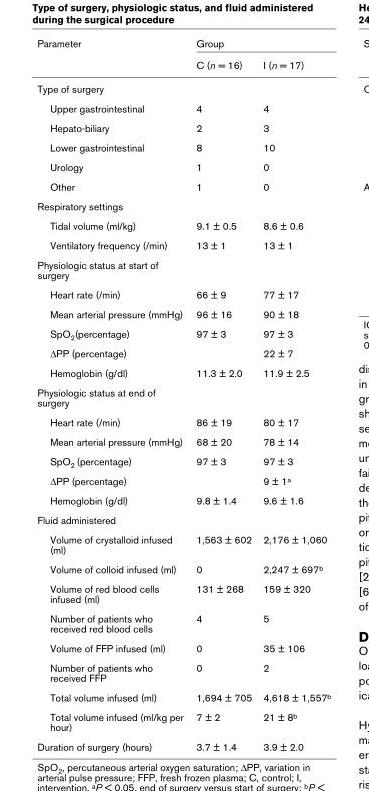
<table><thead><tr><td rowspan="2">Parameter</td><td colspan="2">Group</td></tr><tr><td>C (n = 16)</td><td>I (n = 17)</td></tr></thead><tbody><tr><td colspan="3">Type of surgery</td></tr><tr><td>Upper gastrointestinal</td><td>4</td><td>4</td></tr><tr><td>Hepato-biliary</td><td>2</td><td>3</td></tr><tr><td>Lower gastrointestinal</td><td>8</td><td>10</td></tr><tr><td>Urology</td><td>1</td><td>0</td></tr><tr><td>Other</td><td>1</td><td>0</td></tr><tr><td colspan="3">Respiratory settings</td></tr><tr><td>Tidal volume (ml/kg)</td><td>9.1 ± 0.5</td><td>8.6 ± 0.6</td></tr><tr><td>Ventilatory frequency (/min)</td><td>13 ± 1</td><td>13 ± 1</td></tr><tr><td colspan="3">Physiologic status at start of surgery</td></tr><tr><td>Heart rate (/min)</td><td>66 ± 9</td><td>77 ± 17</td></tr><tr><td>Mean arterial pressure (mmHg)</td><td>96 ± 16</td><td>90 ± 18</td></tr><tr><td>SpO<sub>2</sub>(percentage)</td><td>97 ± 3</td><td>97 ± 3</td></tr><tr><td>ΔPP (percentage)</td><td></td><td>22 ± 7</td></tr><tr><td>Hemoglobin (g/dl)</td><td>11.3 ± 2.0</td><td>11.9 ± 2.5</td></tr><tr><td colspan="3">Physiologic status at end of surgery</td></tr><tr><td>Heart rate (/min)</td><td>86 ± 19</td><td>80 ± 17</td></tr><tr><td>Mean arterial pressure (mmHg)</td><td>68 ± 20</td><td>78 ± 14</td></tr><tr><td>SpO<sub>2</sub> (percentage)</td><td>97 ± 3</td><td>97 ± 3</td></tr><tr><td>ΔPP (percentage)</td><td></td><td>9 ± 1<sup>a</sup></td></tr><tr><td>Hemoglobin (g/dl)</td><td>9.8 ± 1.4</td><td>9.6 ± 1.6</td></tr><tr><td colspan="3">Fluid administered</td></tr><tr><td>Volume of crystalloid infused (ml)</td><td>1,563 ± 602</td><td>2,176 ± 1,060</td></tr><tr><td>Volume of colloid infused (ml)</td><td>0</td><td>2,247 ± 697<sup>b</sup></td></tr><tr><td>Volume of red blood cells infused (ml)</td><td>131 ± 268</td><td>159 ± 320</td></tr><tr><td>Number of patients who received red blood cells</td><td>4</td><td>5</td></tr><tr><td>Volume of FFP infused (ml)</td><td>0</td><td>35 ± 106</td></tr><tr><td>Number of patients who received FFP</td><td>0</td><td>2</td></tr><tr><td>Total volume infused (ml)</td><td>1,694 ± 705</td><td>4,618 ± 1,557<sup>b</sup></td></tr><tr><td>Total volume infused (ml/kg per hour)</td><td>7 ± 2</td><td>21 ± 8<sup>b</sup></td></tr><tr><td>Duration of surgery (hours)</td><td>3.7 ± 1.4</td><td>3.9 ± 2.0</td></tr></tbody></table>